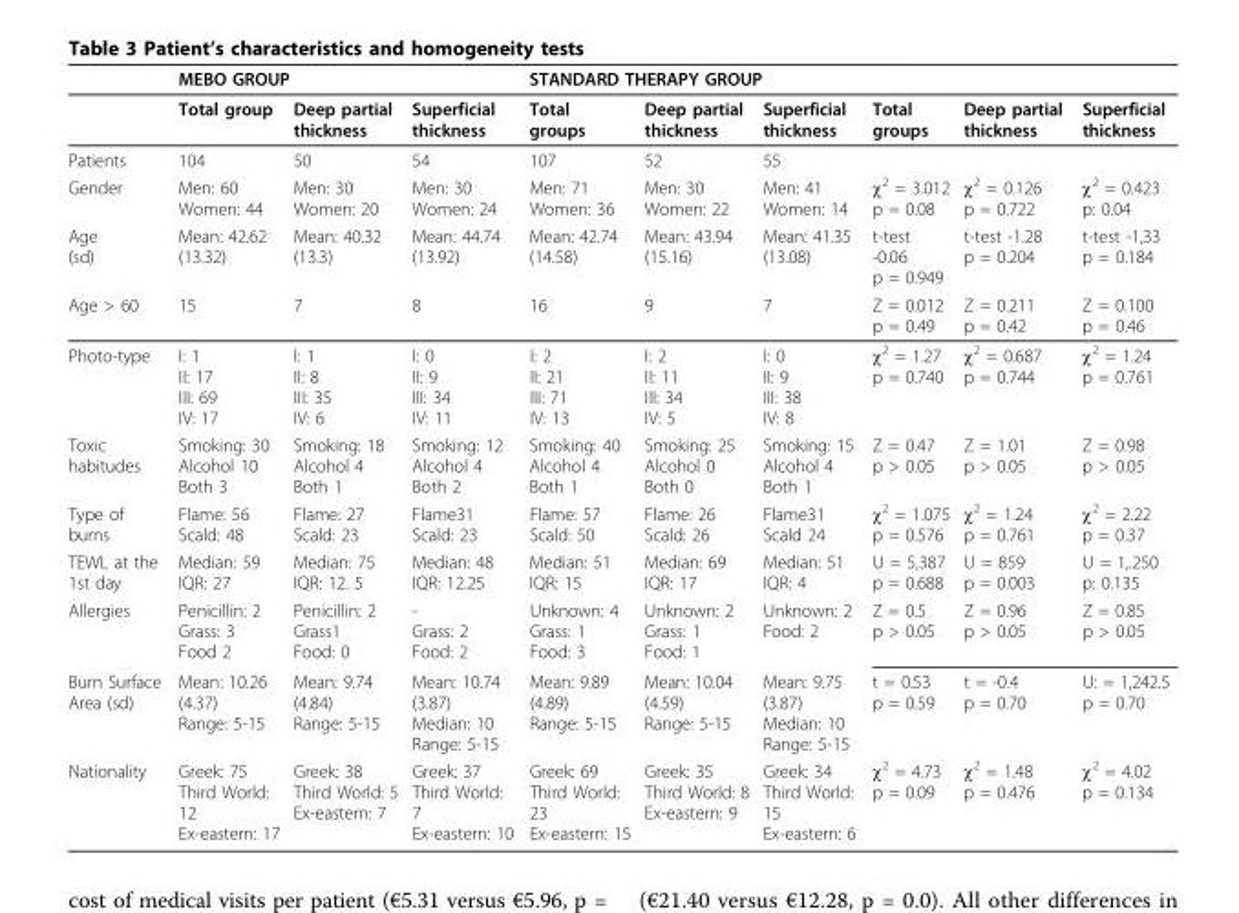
<table><thead><tr><td rowspan="2"></td><td colspan="3">MEBO GROUP</td><td colspan="3">STANDARD THERAPY GROUP</td><td rowspan="2">Total groups</td><td rowspan="2">Deep partial thickness</td><td rowspan="2">Superficial thickness</td></tr><tr><td>Total group</td><td>Deep partial thickness</td><td>Superficial thickness</td><td>Total groups</td><td>Deep partial thickness</td><td>Superficial thickness</td></tr></thead><tbody><tr><td>Patients</td><td>104</td><td>50</td><td>54</td><td>107</td><td>52</td><td>55</td><td></td><td></td><td></td></tr><tr><td>Gender</td><td>Men: 60 Women: 44</td><td>Men: 30 Women: 20</td><td>Men: 30 Women: 24</td><td>Men: 71 Women: 36</td><td>Men: 30 Women: 22</td><td>Men: 41 Women: 14</td><td>χ<sup>2</sup> = 3.012 p = 0.08</td><td>χ<sup>2</sup> = 0.126 p = 0.722</td><td>χ<sup>2</sup> = 0.423 p: 0.04</td></tr><tr><td>Age (sd)</td><td>Mean: 42.62 (13.32)</td><td>Mean: 40.32 (13.3)</td><td>Mean: 44.74 (13.92)</td><td>Mean: 42.74 (14.58)</td><td>Mean: 43.94 (15.16)</td><td>Mean: 41.35 (13.08)</td><td>t-test -0.06 p = 0.949</td><td>t-test -1.28 p = 0.204</td><td>t-test -1,33 p = 0.184</td></tr><tr><td>Age &gt; 60</td><td>15</td><td>7</td><td>8</td><td>16</td><td>9</td><td>7</td><td>Ζ = 0.012 p = 0.49</td><td>Ζ = 0.211 p = 0.42</td><td>Ζ = 0.100 p = 0.46</td></tr><tr><td>Photo-type</td><td>I: 1 II: 17 III: 69 IV: 17</td><td>Ι: 1 II: 8 III: 35 IV: 6</td><td>I: 0 II: 9 III: 34 IV: 11</td><td>I: 2 II: 21 III: 71 IV: 13</td><td>I: 2 II: 11 III: 34 IV: 5</td><td>I: 0 II: 9 III: 38 IV: 8</td><td>χ<sup>2</sup> = 1.27 p = 0.740</td><td>χ<sup>2</sup> = 0.687 p = 0.744</td><td>χ<sup>2</sup> = 1.24 p = 0.761</td></tr><tr><td>Toxic habitudes</td><td>Smoking: 30 Alcohol 10 Both 3</td><td>Smoking: 18 Alcohol 4 Both 1</td><td>Smoking: 12 Alcohol 4 Both 2</td><td>Smoking: 40 Alcohol 4 Both 1</td><td>Smoking: 25 Alcohol 0 Both 0</td><td>Smoking: 15 Alcohol 4 Both 1</td><td>Ζ = 0.47 p &gt; 0.05</td><td>Ζ = 1.01 p &gt; 0.05</td><td>Ζ = 0.98 p &gt; 0.05</td></tr><tr><td>Type of burns</td><td>Flame: 56 Scald: 48</td><td>Flame: 27 Scald: 23</td><td>Flame31 Scald: 23</td><td>Flame: 57 Scald: 50</td><td>Flame: 26 Scald: 26</td><td>Flame31 Scald 24</td><td>χ<sup>2</sup> = 1.075 p = 0.576</td><td>χ<sup>2</sup> = 1.24 p = 0.761</td><td>χ<sup>2</sup> = 2.22 p = 0.37</td></tr><tr><td>TEWL at the 1st day</td><td>Median: 59 IQR: 27</td><td>Median: 75 IQR: 12. 5</td><td>Median: 48 IQR: 12.25</td><td>Median: 51 IQR: 15</td><td>Median: 69 IQR: 17</td><td>Median: 51 IQR: 4</td><td>U = 5,387 p = 0.688</td><td>U = 859 p = 0.003</td><td>U = 1,.250 p: 0.135</td></tr><tr><td>Allergies</td><td>Penicillin: 2 Grass: 3 Food 2</td><td>Penicillin: 2 Grass1 Food: 0</td><td>- Grass: 2 Food: 2</td><td>Unknown: 4 Grass: 1 Food: 3</td><td>Unknown: 2 Grass: 1 Food: 1</td><td>Unknown: 2 Food: 2</td><td>Z = 0.5 p &gt; 0.05</td><td>Z = 0.96 p &gt; 0.05</td><td>Z = 0.85 p &gt; 0.05</td></tr><tr><td>Burn Surface Area (sd)</td><td>Mean: 10.26 (4.37) Range: 5-15</td><td>Mean: 9.74 (4.84) Range: 5-15</td><td>Mean: 10.74 (3.87) Median: 10 Range: 5-15</td><td>Mean: 9.89 (4.89) Range: 5-15</td><td>Mean: 10.04 (4.59) Range: 5-15</td><td>Mean: 9.75 (3.87) Median: 10 Range: 5-15</td><td>t = 0.53 p = 0.59</td><td>t = -0.4 p = 0.70</td><td>U: = 1,242.5 p = 0.70</td></tr><tr><td>Nationality</td><td>Greek: 75 Third World: 12 Ex-eastern: 17</td><td>Greek: 38 Third World: 5 Ex-eastern: 7</td><td>Greek: 37 Third World: 7 Ex-eastern: 10</td><td>Greek: 69 Third World: 23 Ex-eastern: 15</td><td>Greek: 35 Third World: 8 Ex-eastern: 9</td><td>Greek: 34 Third World: 15 Ex-eastern: 6</td><td>χ<sup>2</sup> = 4.73 p = 0.09</td><td>χ<sup>2</sup> = 1.48 p = 0.476</td><td>χ<sup>2</sup> = 4.02 p = 0.134</td></tr></tbody></table>